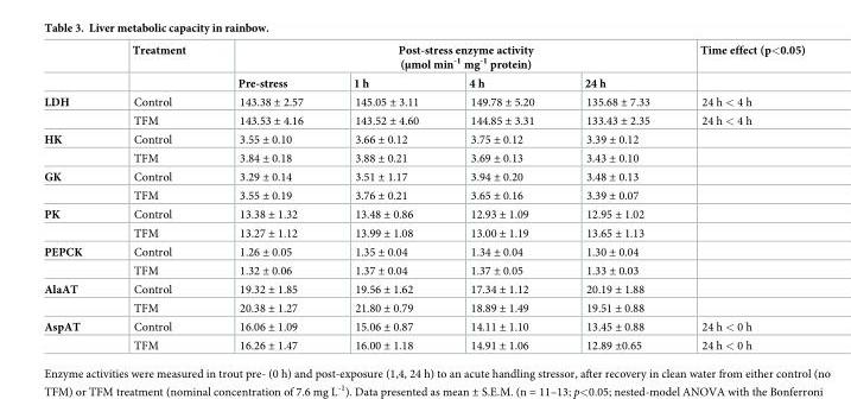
<table><thead><tr><td rowspan="2"></td><td rowspan="2">Treatment</td><td colspan="4">Post-stress enzyme activity (μmol min<sup>-1</sup> mg<sup>-1</sup> protein)</td><td rowspan="2">Time effect (p&lt;0.05)</td></tr><tr><td>Pre-stress</td><td>1 h</td><td>4 h</td><td>24 h</td></tr></thead><tbody><tr><td rowspan="2">LDH</td><td>Control</td><td>143.38 ± 2.57</td><td>145.05 ± 3.11</td><td>149.78 ± 5.20</td><td>135.68 ± 7.33</td><td>24 h &lt; 4 h</td></tr><tr><td>TFM</td><td>143.53 ± 4.16</td><td>143.52 ± 4.60</td><td>144.85 ± 3.31</td><td>133.43 ± 2.35</td><td>24 h &lt; 4 h</td></tr><tr><td rowspan="2">HK</td><td>Control</td><td>3.55 ± 0.10</td><td>3.66 ± 0.12</td><td>3.75 ± 0.12</td><td>3.39 ± 0.12</td><td></td></tr><tr><td>TFM</td><td>3.84 ± 0.18</td><td>3.88 ± 0.21</td><td>3.69 ± 0.13</td><td>3.43 ± 0.10</td><td></td></tr><tr><td rowspan="2">GK</td><td>Control</td><td>3.29 ± 0.14</td><td>3.51 ± 1.17</td><td>3.94 ± 0.20</td><td>3.48 ± 0.13</td><td></td></tr><tr><td>TFM</td><td>3.55 ± 0.19</td><td>3.76 ± 0.21</td><td>3.65 ± 0.16</td><td>3.39 ± 0.07</td><td></td></tr><tr><td rowspan="2">PK</td><td>Control</td><td>13.38 ± 1.32</td><td>13.48 ± 0.86</td><td>12.93 ± 1.09</td><td>12.95 ± 1.02</td><td></td></tr><tr><td>TFM</td><td>13.27 ± 1.12</td><td>13.99 ± 1.08</td><td>13.00 ± 1.19</td><td>13.65 ± 1.13</td><td></td></tr><tr><td rowspan="2">PEPCK</td><td>Control</td><td>1.26 ± 0.05</td><td>1.35 ± 0.04</td><td>1.34 ± 0.04</td><td>1.30 ± 0.04</td><td></td></tr><tr><td>TFM</td><td>1.32 ± 0.06</td><td>1.37 ± 0.04</td><td>1.37 ± 0.05</td><td>1.33 ± 0.03</td><td></td></tr><tr><td rowspan="2">AlaAT</td><td>Control</td><td>19.32 ± 1.85</td><td>19.56 ± 1.62</td><td>17.34 ± 1.12</td><td>20.19 ± 1.88</td><td></td></tr><tr><td>TFM</td><td>20.38 ± 1.27</td><td>21.80 ± 0.79</td><td>18.89 ± 1.49</td><td>19.51 ± 0.88</td><td></td></tr><tr><td rowspan="2">AspAT</td><td>Control</td><td>16.06 ± 1.09</td><td>15.06 ± 0.87</td><td>14.11 ± 1.10</td><td>13.45 ± 0.88</td><td>24 h &lt; 0 h</td></tr><tr><td>TFM</td><td>16.26 ± 1.47</td><td>16.00 ± 1.18</td><td>14.91 ± 1.06</td><td>12.89 ±0.65</td><td>24 h &lt; 0 h</td></tr></tbody></table>